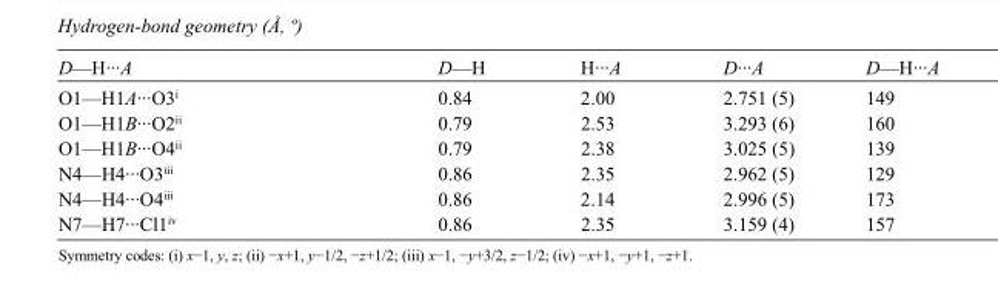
<table><tbody><tr><td>D—H···A</td><td>D—H</td><td>H···A</td><td>D···A</td><td>D—H···A</td></tr><tr><td>O1—H1A···O3<sup>i</sup></td><td>0.84</td><td>2.00</td><td>2.751 (5)</td><td>149</td></tr><tr><td>O1—H1B···O2<sup>ii</sup></td><td>0.79</td><td>2.53</td><td>3.293 (6)</td><td>160</td></tr><tr><td>O1—H1B···O4<sup>ii</sup></td><td>0.79</td><td>2.38</td><td>3.025 (5)</td><td>139</td></tr><tr><td>N4—H4···O3<sup>iii</sup></td><td>0.86</td><td>2.35</td><td>2.962 (5)</td><td>129</td></tr><tr><td>N4—H4···O4<sup>iii</sup></td><td>0.86</td><td>2.14</td><td>2.996 (5)</td><td>173</td></tr><tr><td>N7—H7···Cl1<sup>iv</sup></td><td>0.86</td><td>2.35</td><td>3.159 (4)</td><td>157</td></tr></tbody></table>